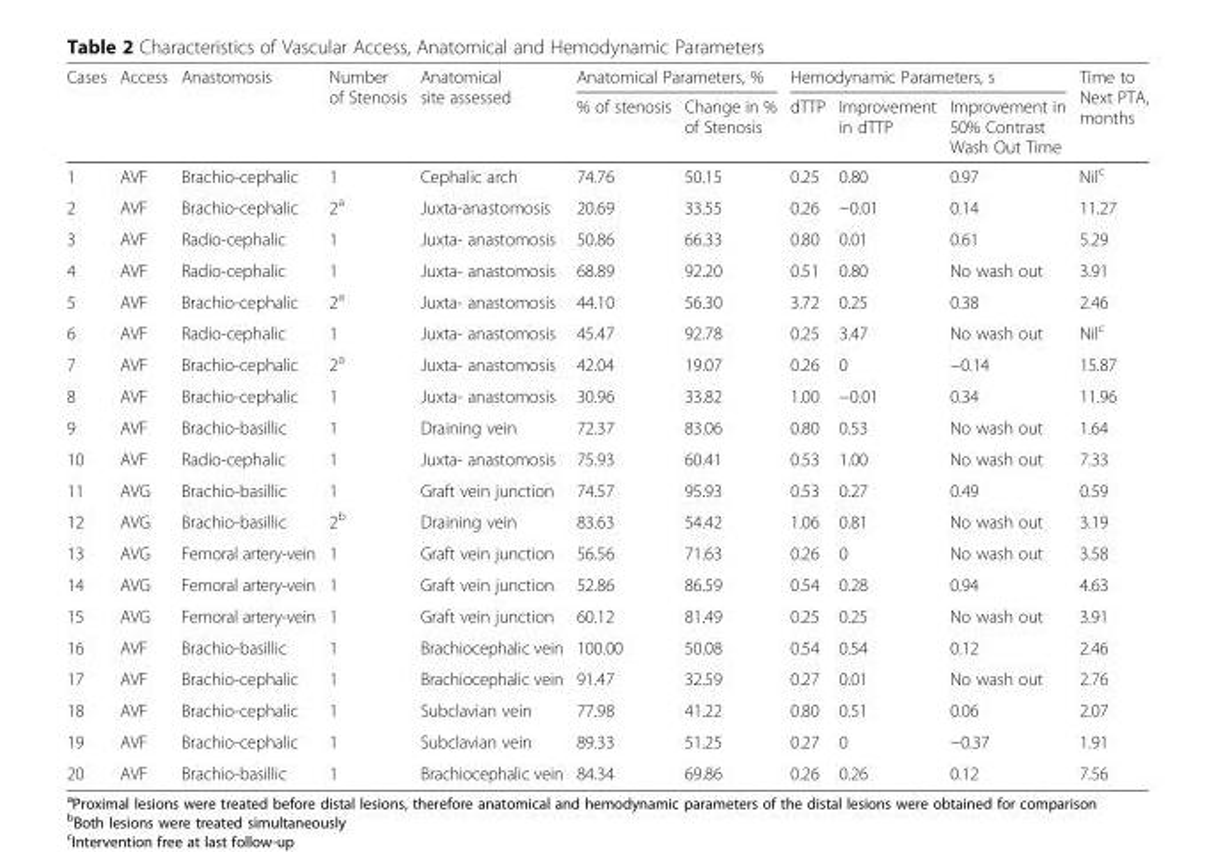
<table><thead><tr><td rowspan="2">Cases</td><td rowspan="2">Access</td><td rowspan="2">Anastomosis</td><td rowspan="2">Number of Stenosis</td><td rowspan="2">Anatomical site assessed</td><td colspan="2">Anatomical Parameters, %</td><td colspan="3">Hemodynamic Parameters, s</td><td rowspan="2">Time to Next PTA, months</td></tr><tr><td>% of stenosis</td><td>Change in % of Stenosis</td><td>dTTP</td><td>Improvement in dTTP</td><td>Improvement in 50% Contrast Wash Out Time</td></tr></thead><tbody><tr><td>1</td><td>AVF</td><td>Brachio-cephalic</td><td>1</td><td>Cephalic arch</td><td>74.76</td><td>50.15</td><td>0.25</td><td>0.80</td><td>0.97</td><td>Nil<sup>c</sup></td></tr><tr><td>2</td><td>AVF</td><td>Brachio-cephalic</td><td>2<sup>a</sup></td><td>Juxta-anastomosis</td><td>20.69</td><td>33.55</td><td>0.26</td><td>−0.01</td><td>0.14</td><td>11.27</td></tr><tr><td>3</td><td>AVF</td><td>Radio-cephalic</td><td>1</td><td>Juxta- anastomosis</td><td>50.86</td><td>66.33</td><td>0.80</td><td>0.01</td><td>0.61</td><td>5.29</td></tr><tr><td>4</td><td>AVF</td><td>Radio-cephalic</td><td>1</td><td>Juxta- anastomosis</td><td>68.89</td><td>92.20</td><td>0.51</td><td>0.80</td><td>No wash out</td><td>3.91</td></tr><tr><td>5</td><td>AVF</td><td>Brachio-cephalic</td><td>2<sup>a</sup></td><td>Juxta- anastomosis</td><td>44.10</td><td>56.30</td><td>3.72</td><td>0.25</td><td>0.38</td><td>2.46</td></tr><tr><td>6</td><td>AVF</td><td>Radio-cephalic</td><td>1</td><td>Juxta- anastomosis</td><td>45.47</td><td>92.78</td><td>0.25</td><td>3.47</td><td>No wash out</td><td>Nil<sup>c</sup></td></tr><tr><td>7</td><td>AVF</td><td>Brachio-cephalic</td><td>2<sup>a</sup></td><td>Juxta- anastomosis</td><td>42.04</td><td>19.07</td><td>0.26</td><td>0</td><td>−0.14</td><td>15.87</td></tr><tr><td>8</td><td>AVF</td><td>Brachio-cephalic</td><td>1</td><td>Juxta- anastomosis</td><td>30.96</td><td>33.82</td><td>1.00</td><td>−0.01</td><td>0.34</td><td>11.96</td></tr><tr><td>9</td><td>AVF</td><td>Brachio-basillic</td><td>1</td><td>Draining vein</td><td>72.37</td><td>83.06</td><td>0.80</td><td>0.53</td><td>No wash out</td><td>1.64</td></tr><tr><td>10</td><td>AVF</td><td>Radio-cephalic</td><td>1</td><td>Juxta- anastomosis</td><td>75.93</td><td>60.41</td><td>0.53</td><td>1.00</td><td>No wash out</td><td>7.33</td></tr><tr><td>11</td><td>AVG</td><td>Brachio-basillic</td><td>1</td><td>Graft vein junction</td><td>74.57</td><td>95.93</td><td>0.53</td><td>0.27</td><td>0.49</td><td>0.59</td></tr><tr><td>12</td><td>AVG</td><td>Brachio-basillic</td><td>2<sup>b</sup></td><td>Draining vein</td><td>83.63</td><td>54.42</td><td>1.06</td><td>0.81</td><td>No wash out</td><td>3.19</td></tr><tr><td>13</td><td>AVG</td><td>Femoral artery-vein</td><td>1</td><td>Graft vein junction</td><td>56.56</td><td>71.63</td><td>0.26</td><td>0</td><td>No wash out</td><td>3.58</td></tr><tr><td>14</td><td>AVG</td><td>Femoral artery-vein</td><td>1</td><td>Graft vein junction</td><td>52.86</td><td>86.59</td><td>0.54</td><td>0.28</td><td>0.94</td><td>4.63</td></tr><tr><td>15</td><td>AVG</td><td>Femoral artery-vein</td><td>1</td><td>Graft vein junction</td><td>60.12</td><td>81.49</td><td>0.25</td><td>0.25</td><td>No wash out</td><td>3.91</td></tr><tr><td>16</td><td>AVF</td><td>Brachio-basillic</td><td>1</td><td>Brachiocephalic vein</td><td>100.00</td><td>50.08</td><td>0.54</td><td>0.54</td><td>0.12</td><td>2.46</td></tr><tr><td>17</td><td>AVF</td><td>Brachio-cephalic</td><td>1</td><td>Brachiocephalic vein</td><td>91.47</td><td>32.59</td><td>0.27</td><td>0.01</td><td>No wash out</td><td>2.76</td></tr><tr><td>18</td><td>AVF</td><td>Brachio-cephalic</td><td>1</td><td>Subclavian vein</td><td>77.98</td><td>41.22</td><td>0.80</td><td>0.51</td><td>0.06</td><td>2.07</td></tr><tr><td>19</td><td>AVF</td><td>Brachio-cephalic</td><td>1</td><td>Subclavian vein</td><td>89.33</td><td>51.25</td><td>0.27</td><td>0</td><td>−0.37</td><td>1.91</td></tr><tr><td>20</td><td>AVF</td><td>Brachio-basillic</td><td>1</td><td>Brachiocephalic vein</td><td>84.34</td><td>69.86</td><td>0.26</td><td>0.26</td><td>0.12</td><td>7.56</td></tr></tbody></table>